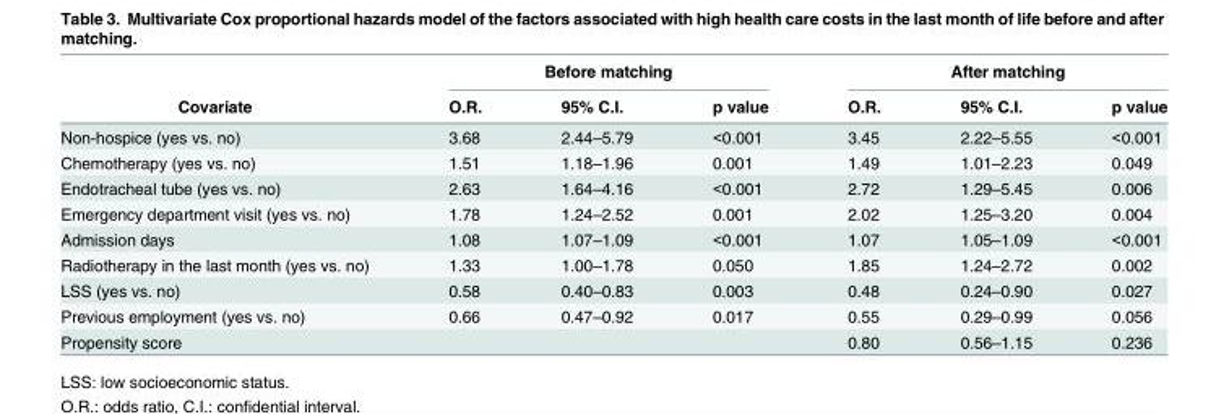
<table><thead><tr><td rowspan="2">Covariate</td><td colspan="3">Before matching</td><td colspan="3">After matching</td></tr><tr><td>O.R.</td><td>95% C.I.</td><td>p value</td><td>O.R.</td><td>95% C.I.</td><td>p value</td></tr></thead><tbody><tr><td>Non-hospice (yes vs. no)</td><td>3.68</td><td>2.44–5.79</td><td>&lt;0.001</td><td>3.45</td><td>2.22–5.55</td><td>&lt;0.001</td></tr><tr><td>Chemotherapy (yes vs. no)</td><td>1.51</td><td>1.18–1.96</td><td>0.001</td><td>1.49</td><td>1.01–2.23</td><td>0.049</td></tr><tr><td>Endotracheal tube (yes vs. no)</td><td>2.63</td><td>1.64–4.16</td><td>&lt;0.001</td><td>2.72</td><td>1.29–5.45</td><td>0.006</td></tr><tr><td>Emergency department visit (yes vs. no)</td><td>1.78</td><td>1.24–2.52</td><td>0.001</td><td>2.02</td><td>1.25–3.20</td><td>0.004</td></tr><tr><td>Admission days</td><td>1.08</td><td>1.07–1.09</td><td>&lt;0.001</td><td>1.07</td><td>1.05–1.09</td><td>&lt;0.001</td></tr><tr><td>Radiotherapy in the last month (yes vs. no)</td><td>1.33</td><td>1.00–1.78</td><td>0.050</td><td>1.85</td><td>1.24–2.72</td><td>0.002</td></tr><tr><td>LSS (yes vs. no)</td><td>0.58</td><td>0.40–0.83</td><td>0.003</td><td>0.48</td><td>0.24–0.90</td><td>0.027</td></tr><tr><td>Previous employment (yes vs. no)</td><td>0.66</td><td>0.47–0.92</td><td>0.017</td><td>0.55</td><td>0.29–0.99</td><td>0.056</td></tr><tr><td>Propensity score</td><td></td><td></td><td></td><td>0.80</td><td>0.56–1.15</td><td>0.236</td></tr></tbody></table>